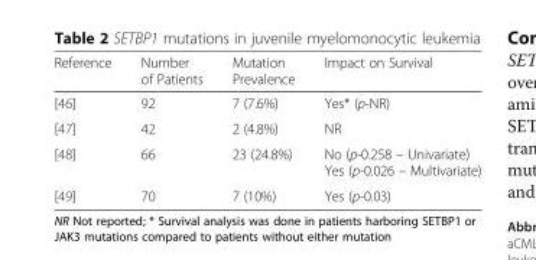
<table><thead><tr><td>Reference</td><td>Number of Patients</td><td>Mutation Prevalence</td><td>Impact on Survival</td></tr></thead><tbody><tr><td>[46]</td><td>92</td><td>7 (7.6%)</td><td>Yes* (p-NR)</td></tr><tr><td>[47]</td><td>42</td><td>2 (4.8%)</td><td>NR</td></tr><tr><td>[48]</td><td>66</td><td>23 (24.8%)</td><td>No (p-0.258 – Univariate) Yes (p-0.026 – Multivariate)</td></tr><tr><td>[49]</td><td>70</td><td>7 (10%)</td><td>Yes (p-0.03)</td></tr></tbody></table>